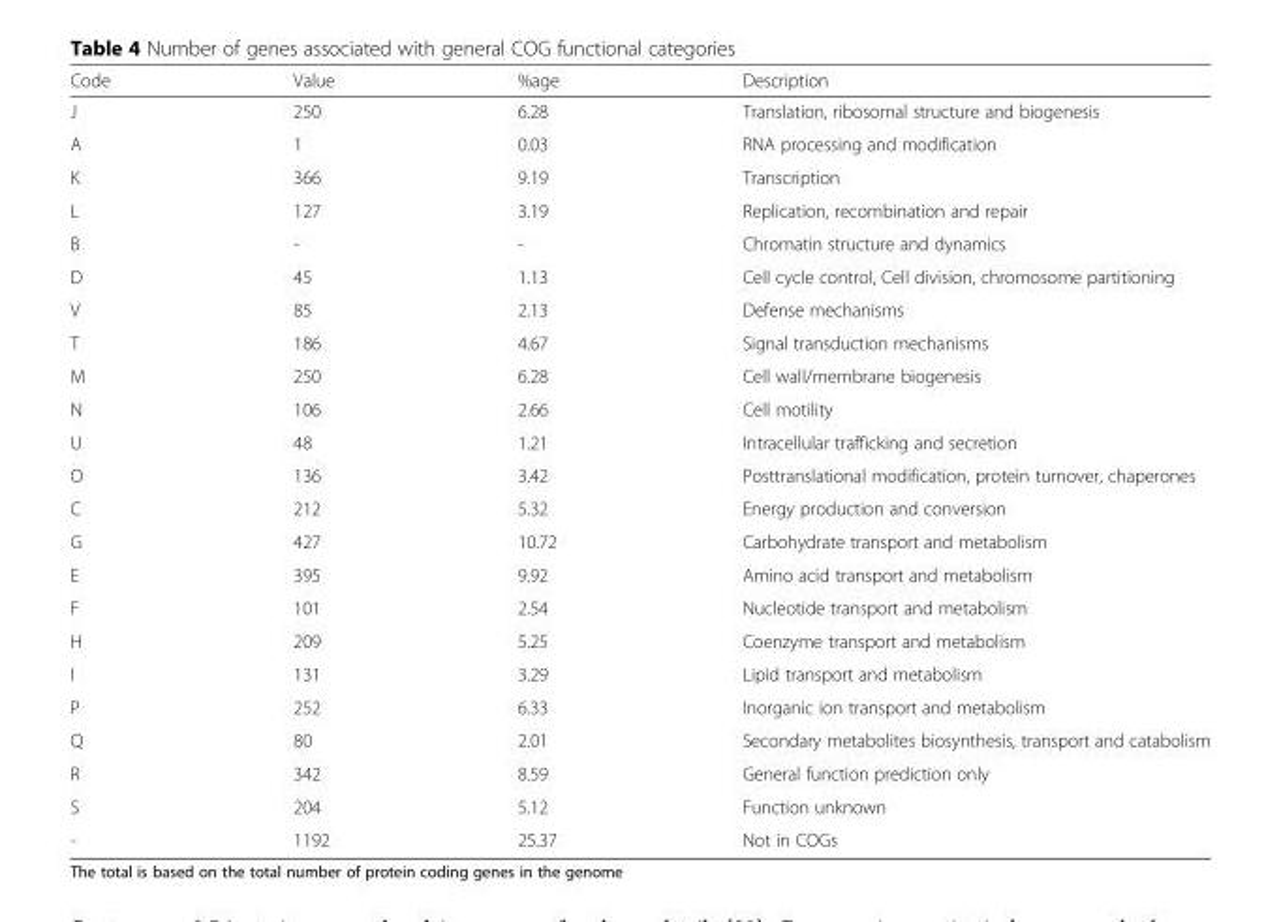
<table><thead><tr><td>Code</td><td>Value</td><td>%age</td><td>Description</td></tr></thead><tbody><tr><td>J</td><td>250</td><td>6.28</td><td>Translation, ribosomal structure and biogenesis</td></tr><tr><td>A</td><td>1</td><td>0.03</td><td>RNA processing and modification</td></tr><tr><td>K</td><td>366</td><td>9.19</td><td>Transcription</td></tr><tr><td>L</td><td>127</td><td>3.19</td><td>Replication, recombination and repair</td></tr><tr><td>B</td><td>-</td><td>-</td><td>Chromatin structure and dynamics</td></tr><tr><td>D</td><td>45</td><td>1.13</td><td>Cell cycle control, Cell division, chromosome partitioning</td></tr><tr><td>V</td><td>85</td><td>2.13</td><td>Defense mechanisms</td></tr><tr><td>T</td><td>186</td><td>4.67</td><td>Signal transduction mechanisms</td></tr><tr><td>M</td><td>250</td><td>6.28</td><td>Cell wall/membrane biogenesis</td></tr><tr><td>N</td><td>106</td><td>2.66</td><td>Cell motility</td></tr><tr><td>U</td><td>48</td><td>1.21</td><td>Intracellular trafficking and secretion</td></tr><tr><td>O</td><td>136</td><td>3.42</td><td>Posttranslational modification, protein turnover, chaperones</td></tr><tr><td>C</td><td>212</td><td>5.32</td><td>Energy production and conversion</td></tr><tr><td>G</td><td>427</td><td>10.72</td><td>Carbohydrate transport and metabolism</td></tr><tr><td>E</td><td>395</td><td>9.92</td><td>Amino acid transport and metabolism</td></tr><tr><td>F</td><td>101</td><td>2.54</td><td>Nucleotide transport and metabolism</td></tr><tr><td>H</td><td>209</td><td>5.25</td><td>Coenzyme transport and metabolism</td></tr><tr><td>I</td><td>131</td><td>3.29</td><td>Lipid transport and metabolism</td></tr><tr><td>P</td><td>252</td><td>6.33</td><td>Inorganic ion transport and metabolism</td></tr><tr><td>Q</td><td>80</td><td>2.01</td><td>Secondary metabolites biosynthesis, transport and catabolism</td></tr><tr><td>R</td><td>342</td><td>8.59</td><td>General function prediction only</td></tr><tr><td>S</td><td>204</td><td>5.12</td><td>Function unknown</td></tr><tr><td>-</td><td>1192</td><td>25.37</td><td>Not in COGs</td></tr></tbody></table>